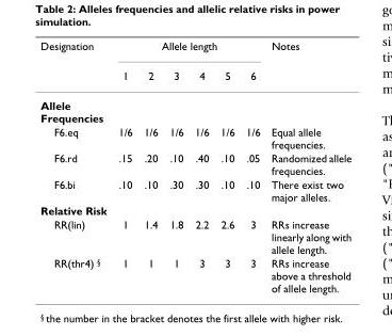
<table><thead><tr><td rowspan="2">Designation</td><td colspan="6">Allele length</td><td rowspan="2">Notes</td></tr><tr><td>1</td><td>2</td><td>3</td><td>4</td><td>5</td><td>6</td></tr></thead><tbody><tr><td colspan="8">Allele Frequencies</td></tr><tr><td>F6.eq</td><td>1/6</td><td>1/6</td><td>1/6</td><td>1/6</td><td>1/6</td><td>1/6</td><td>Equal allele frequencies.</td></tr><tr><td>F6.rd</td><td>.15</td><td>.20</td><td>.10</td><td>.40</td><td>.10</td><td>.05</td><td>Randomized allele frequencies.</td></tr><tr><td>F6.bi</td><td>.10</td><td>.10</td><td>.30</td><td>.30</td><td>.10</td><td>.10</td><td>There exist two major alleles.</td></tr><tr><td colspan="8">Relative Risk</td></tr><tr><td>RR(lin)</td><td>1</td><td>1.4</td><td>1.8</td><td>2.2</td><td>2.6</td><td>3</td><td>RRs increase linearly along with allele length.</td></tr><tr><td>RR(thr4) <sup>§</sup></td><td>1</td><td>1</td><td>1</td><td>3</td><td>3</td><td>3</td><td>RRs increase above a threshold of allele length.</td></tr></tbody></table>